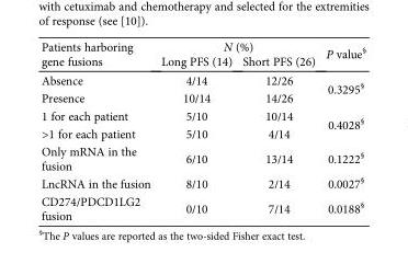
<table><thead><tr><td rowspan="2">Patients harboring gene fusions</td><td colspan="2">N (%)</td><td rowspan="2">P value<sup>§</sup></td></tr><tr><td>Long PFS (14)</td><td>Short PFS (26)</td></tr></thead><tbody><tr><td>Absence</td><td>4/14</td><td>12/26</td><td rowspan="2">0.3295<sup>§</sup></td></tr><tr><td>Presence</td><td>10/14</td><td>14/26</td></tr><tr><td>1 for each patient</td><td>5/10</td><td>10/14</td><td rowspan="2">0.4028<sup>§</sup></td></tr><tr><td>&gt;1 for each patient</td><td>5/10</td><td>4/14</td></tr><tr><td>Only mRNA in the fusion</td><td>6/10</td><td>13/14</td><td>0.1222<sup>§</sup></td></tr><tr><td>LncRNA in the fusion</td><td>8/10</td><td>2/14</td><td>0.0027<sup>§</sup></td></tr><tr><td>CD274/PDCD1LG2 fusion</td><td>0/10</td><td>7/14</td><td>0.0188<sup>§</sup></td></tr></tbody></table>